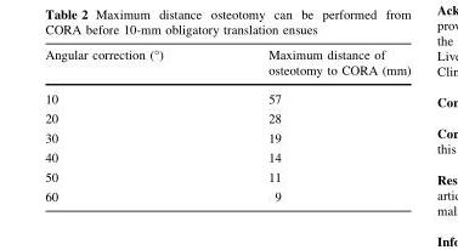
<table><thead><tr><td>Angular correction (°)</td><td>Maximum distance of osteotomy to CORA (mm)</td></tr></thead><tbody><tr><td>10</td><td>57</td></tr><tr><td>20</td><td>28</td></tr><tr><td>30</td><td>19</td></tr><tr><td>40</td><td>14</td></tr><tr><td>50</td><td>11</td></tr><tr><td>60</td><td>9</td></tr></tbody></table>